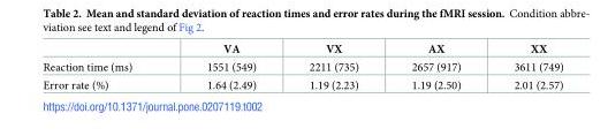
<table><thead><tr><td></td><td>VA</td><td>VX</td><td>AX</td><td>XX</td></tr></thead><tbody><tr><td>Reaction time (ms)</td><td>1551 (549)</td><td>2211 (735)</td><td>2657 (917)</td><td>3611 (749)</td></tr><tr><td>Error rate (%)</td><td>1.64 (2.49)</td><td>1.19 (2.23)</td><td>1.19 (2.50)</td><td>2.01 (2.57)</td></tr></tbody></table>